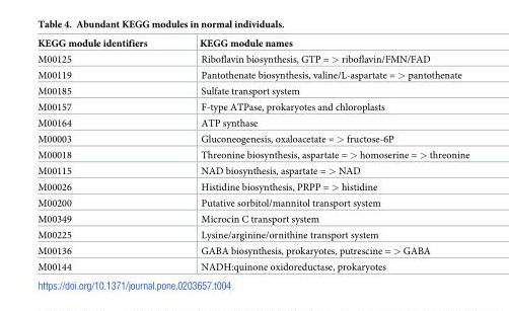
<table><thead><tr><td>KEGG module identifiers</td><td>KEGG module names</td></tr></thead><tbody><tr><td>M00125</td><td>Riboflavin biosynthesis, GTP = &gt; riboflavin/FMN/FAD</td></tr><tr><td>M00119</td><td>Pantothenate biosynthesis, valine/L-aspartate = &gt; pantothenate</td></tr><tr><td>M00185</td><td>Sulfate transport system</td></tr><tr><td>M00157</td><td>F-type ATPase, prokaryotes and chloroplasts</td></tr><tr><td>M00164</td><td>ATP synthase</td></tr><tr><td>M00003</td><td>Gluconeogenesis, oxaloacetate = &gt; fructose-6P</td></tr><tr><td>M00018</td><td>Threonine biosynthesis, aspartate = &gt; homoserine = &gt; threonine</td></tr><tr><td>M00115</td><td>NAD biosynthesis, aspartate = &gt; NAD</td></tr><tr><td>M00026</td><td>Histidine biosynthesis, PRPP = &gt; histidine</td></tr><tr><td>M00200</td><td>Putative sorbitol/mannitol transport system</td></tr><tr><td>M00349</td><td>Microcin C transport system</td></tr><tr><td>M00225</td><td>Lysine/arginine/ornithine transport system</td></tr><tr><td>M00136</td><td>GABA biosynthesis, prokaryotes, putrescine = &gt; GABA</td></tr><tr><td>M00144</td><td>NADH:quinone oxidoreductase, prokaryotes</td></tr></tbody></table>